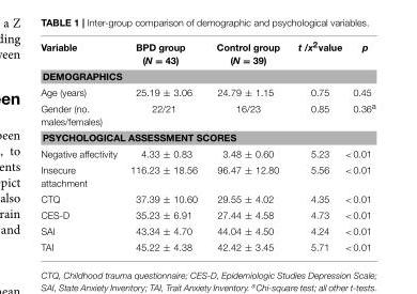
<table><thead><tr><td>Variable</td><td>BPD group (N = 43)</td><td>Control group (N = 39)</td><td>t /x<sup>2</sup>value</td><td>p</td></tr></thead><tbody><tr><td colspan="5">DEMOGRAPHICS</td></tr><tr><td>Age (years)</td><td>25.19 ± 3.06</td><td>24.79 ± 1.15</td><td>0.75</td><td>0.45</td></tr><tr><td>Gender (no. males/females)</td><td>22/21</td><td>16/23</td><td>0.85</td><td>0.36<sup>a</sup></td></tr><tr><td colspan="5">PSYCHOLOGICAL ASSESSMENT SCORES</td></tr><tr><td>Negative affectivity</td><td>4.33 ± 0.83</td><td>3.48 ± 0.60</td><td>5.23</td><td>&lt;0.01</td></tr><tr><td>Insecure attachment</td><td>116.23 ± 18.56</td><td>96.47 ± 12.80</td><td>5.56</td><td>&lt;0.01</td></tr><tr><td>CTQ</td><td>37.39 ± 10.60</td><td>29.55 ± 4.02</td><td>4.35</td><td>&lt;0.01</td></tr><tr><td>CES-D</td><td>35.23 ± 6.91</td><td>27.44 ± 4.58</td><td>4.73</td><td>&lt;0.01</td></tr><tr><td>SAI</td><td>43.34 ± 4.70</td><td>44.04 ± 4.50</td><td>4.24</td><td>&lt;0.01</td></tr><tr><td>TAI</td><td>45.22 ± 4.38</td><td>42.42 ± 3.45</td><td>5.71</td><td>&lt;0.01</td></tr></tbody></table>